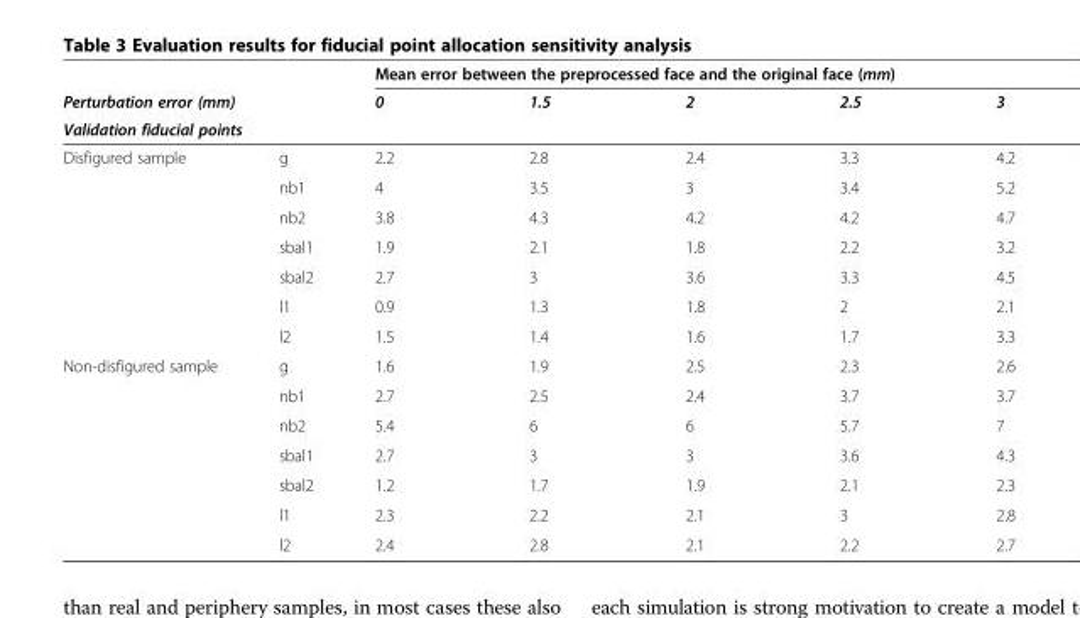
<table><thead><tr><td></td><td></td><td colspan="5">Mean error between the preprocessed face and the original face (mm)</td></tr><tr><td rowspan="2" colspan="2">Perturbation error (mm) Validation fiducial points</td><td rowspan="2">0</td><td rowspan="2">1.5</td><td rowspan="2">2</td><td rowspan="2">2.5</td><td rowspan="2">3</td></tr><tr></tr></thead><tbody><tr><td rowspan="7">Disfigured sample</td><td>g</td><td>2.2</td><td>2.8</td><td>2.4</td><td>3.3</td><td>4.2</td></tr><tr><td>nb1</td><td>4</td><td>3.5</td><td>3</td><td>3.4</td><td>5.2</td></tr><tr><td>nb2</td><td>3.8</td><td>4.3</td><td>4.2</td><td>4.2</td><td>4.7</td></tr><tr><td>sbal1</td><td>1.9</td><td>2.1</td><td>1.8</td><td>2.2</td><td>3.2</td></tr><tr><td>sbal2</td><td>2.7</td><td>3</td><td>3.6</td><td>3.3</td><td>4.5</td></tr><tr><td>l1</td><td>0.9</td><td>1.3</td><td>1.8</td><td>2</td><td>2.1</td></tr><tr><td>l2</td><td>1.5</td><td>1.4</td><td>1.6</td><td>1.7</td><td>3.3</td></tr><tr><td rowspan="7">Non-disfigured sample</td><td>g</td><td>1.6</td><td>1.9</td><td>2.5</td><td>2.3</td><td>2.6</td></tr><tr><td>nb1</td><td>2.7</td><td>2.5</td><td>2.4</td><td>3.7</td><td>3.7</td></tr><tr><td>nb2</td><td>5.4</td><td>6</td><td>6</td><td>5.7</td><td>7</td></tr><tr><td>sbal1</td><td>2.7</td><td>3</td><td>3</td><td>3.6</td><td>4.3</td></tr><tr><td>sbal2</td><td>1.2</td><td>1.7</td><td>1.9</td><td>2.1</td><td>2.3</td></tr><tr><td>l1</td><td>2.3</td><td>2.2</td><td>2.1</td><td>3</td><td>2.8</td></tr><tr><td>l2</td><td>2.4</td><td>2.8</td><td>2.1</td><td>2.2</td><td>2.7</td></tr></tbody></table>